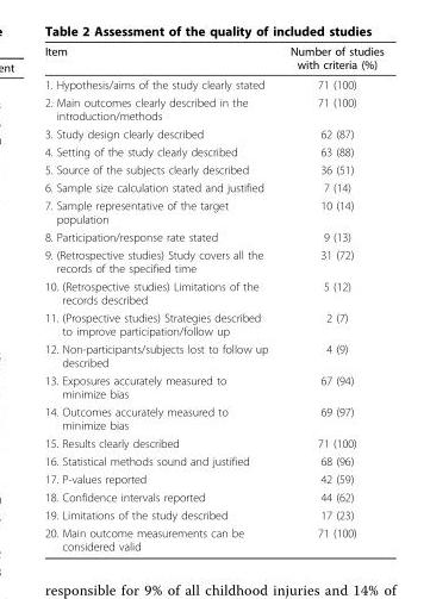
<table><thead><tr><td>Item</td><td>Number of studies with criteria (%)</td></tr></thead><tbody><tr><td>1. Hypothesis/aims of the study clearly stated</td><td>71 (100)</td></tr><tr><td>2. Main outcomes clearly described in the introduction/methods</td><td>71 (100)</td></tr><tr><td>3. Study design clearly described</td><td>62 (87)</td></tr><tr><td>4. Setting of the study clearly described</td><td>63 (88)</td></tr><tr><td>5. Source of the subjects clearly described</td><td>36 (51)</td></tr><tr><td>6. Sample size calculation stated and justified</td><td>7 (14)</td></tr><tr><td>7. Sample representative of the target population</td><td>10 (14)</td></tr><tr><td>8. Participation/response rate stated</td><td>9 (13)</td></tr><tr><td>9. (Retrospective studies) Study covers all the records of the specified time</td><td>31 (72)</td></tr><tr><td>10. (Retrospective studies) Limitations of the records described</td><td>5 (12)</td></tr><tr><td>11. (Prospective studies) Strategies described to improve participation/follow up</td><td>2 (7)</td></tr><tr><td>12. Non-participants/subjects lost to follow up described</td><td>4 (9)</td></tr><tr><td>13. Exposures accurately measured to minimize bias</td><td>67 (94)</td></tr><tr><td>14. Outcomes accurately measured to minimize bias</td><td>69 (97)</td></tr><tr><td>15. Results clearly described</td><td>71 (100)</td></tr><tr><td>16. Statistical methods sound and justified</td><td>68 (96)</td></tr><tr><td>17. P-values reported</td><td>42 (59)</td></tr><tr><td>18. Confidence intervals reported</td><td>44 (62)</td></tr><tr><td>19. Limitations of the study described</td><td>17 (23)</td></tr><tr><td>20. Main outcome measurements can be considered valid</td><td>71 (100)</td></tr></tbody></table>